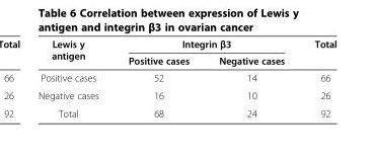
<table><thead><tr><td rowspan="2">Lewis y antigen</td><td colspan="2">Integrin β3</td><td rowspan="2">Total</td></tr><tr><td>Positive cases</td><td>Negative cases</td></tr></thead><tbody><tr><td>Positive cases</td><td>52</td><td>14</td><td>66</td></tr><tr><td>Negative cases</td><td>16</td><td>10</td><td>26</td></tr><tr><td>Total</td><td>68</td><td>24</td><td>92</td></tr></tbody></table>